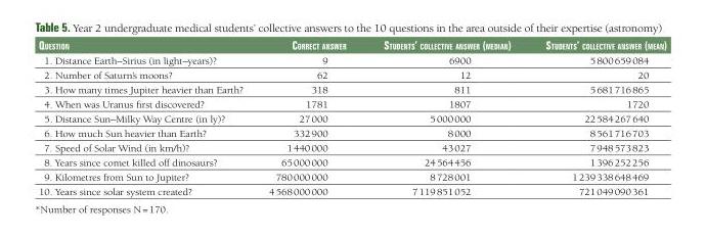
<table><thead><tr><td>Question</td><td>CorreCt answer</td><td>students’ ColleCtive answer (median)</td><td>students’ ColleCtive answer (mean)</td></tr></thead><tbody><tr><td>1. Distance Earth–Sirius (in light–years)?</td><td>9</td><td>6900</td><td>5 800 659 084</td></tr><tr><td>2. Number of Saturn’s moons?</td><td>62</td><td>12</td><td>20</td></tr><tr><td>3. How many times Jupiter heavier than Earth?</td><td>318</td><td>811</td><td>5 681 716 865</td></tr><tr><td>4. When was Uranus first discovered?</td><td>1781</td><td>1807</td><td>1720</td></tr><tr><td>5. Distance Sun–Milky Way Centre (in ly)?</td><td>27 000</td><td>5 000 000</td><td>22 584 267 640</td></tr><tr><td>6. How much Sun heavier than Earth?</td><td>332 900</td><td>8 000</td><td>8 561 716 703</td></tr><tr><td>7. Speed of Solar Wind (in km/h)?</td><td>1 440 000</td><td>43 027</td><td>7 948 573 823</td></tr><tr><td>8. Years since comet killed off dinosaurs?</td><td>65 000 000</td><td>24 564 456</td><td>1 396 252 256</td></tr><tr><td>9. Kilometres from Sun to Jupiter?</td><td>780 000 000</td><td>8 728 001</td><td>1 239 338 648 469</td></tr><tr><td>10. Years since solar system created?</td><td>4 568 000 000</td><td>7 119 851 052</td><td>721 049 090 361</td></tr></tbody></table>